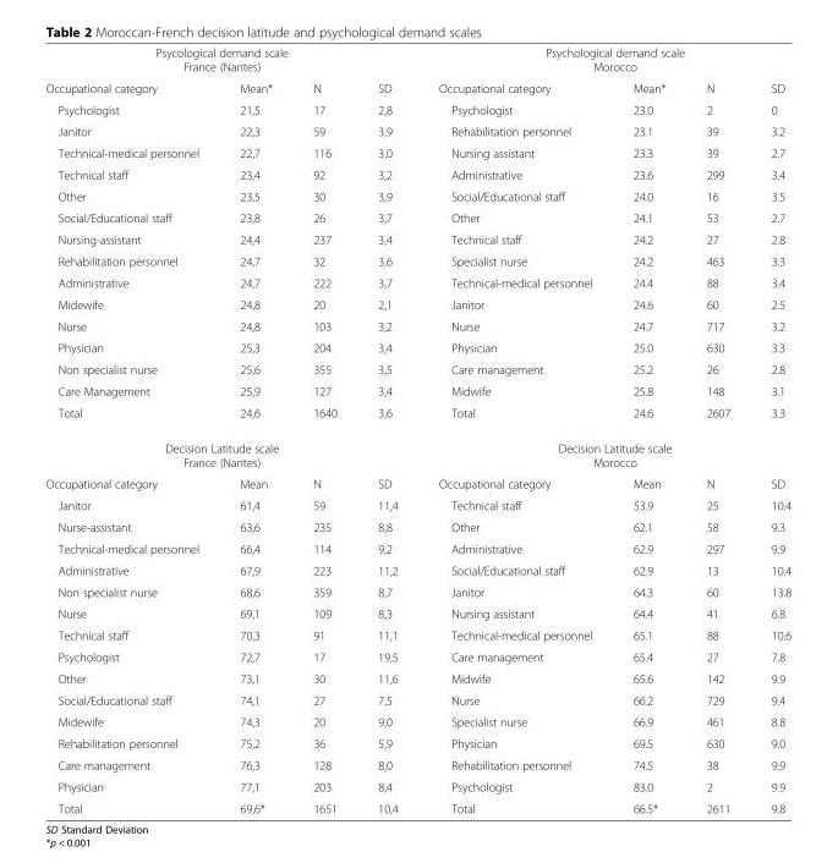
<table><tbody><tr><td colspan="4">Psycological demand scale France (Nantes)</td><td colspan="4">Psychological demand scale Morocco</td></tr><tr><td>Occupational category</td><td>Mean*</td><td>N</td><td>SD</td><td>Occupational category</td><td>Mean*</td><td>N</td><td>SD</td></tr><tr><td>Psychologist</td><td>21,5</td><td>17</td><td>2,8</td><td>Psychologist</td><td>23.0</td><td>2</td><td>0</td></tr><tr><td>Janitor</td><td>22,3</td><td>59</td><td>3,9</td><td>Rehabilitation personnel</td><td>23.1</td><td>39</td><td>3.2</td></tr><tr><td>Technical-medical personnel</td><td>22,7</td><td>116</td><td>3,0</td><td>Nursing assistant</td><td>23.3</td><td>39</td><td>2.7</td></tr><tr><td>Technical staff</td><td>23,4</td><td>92</td><td>3,2</td><td>Administrative</td><td>23.6</td><td>299</td><td>3.4</td></tr><tr><td>Other</td><td>23,5</td><td>30</td><td>3,9</td><td>Social/Educational staff</td><td>24.0</td><td>16</td><td>3.5</td></tr><tr><td>Social/Educational staff</td><td>23,8</td><td>26</td><td>3,7</td><td>Other</td><td>24.1</td><td>53</td><td>2.7</td></tr><tr><td>Nursing-assistant</td><td>24,4</td><td>237</td><td>3,4</td><td>Technical staff</td><td>24.2</td><td>27</td><td>2.8</td></tr><tr><td>Rehabilitation personnel</td><td>24,7</td><td>32</td><td>3,6</td><td>Specialist nurse</td><td>24.2</td><td>463</td><td>3.3</td></tr><tr><td>Administrative</td><td>24,7</td><td>222</td><td>3,7</td><td>Technical-medical personnel</td><td>24.4</td><td>88</td><td>3.4</td></tr><tr><td>Midewife</td><td>24,8</td><td>20</td><td>2,1</td><td>Janitor</td><td>24.6</td><td>60</td><td>2.5</td></tr><tr><td>Nurse</td><td>24,8</td><td>103</td><td>3,2</td><td>Nurse</td><td>24.7</td><td>717</td><td>3.2</td></tr><tr><td>Physician</td><td>25,3</td><td>204</td><td>3,4</td><td>Physician</td><td>25.0</td><td>630</td><td>3.3</td></tr><tr><td>Non specialist nurse</td><td>25,6</td><td>355</td><td>3,5</td><td>Care management</td><td>25.2</td><td>26</td><td>2.8</td></tr><tr><td>Care Management</td><td>25,9</td><td>127</td><td>3,4</td><td>Midwife</td><td>25.8</td><td>148</td><td>3.1</td></tr><tr><td>Total</td><td>24,6</td><td>1640</td><td>3,6</td><td>Total</td><td>24.6</td><td>2607</td><td>3.3</td></tr><tr><td colspan="4">Decision Latitude scale France (Nantes)</td><td colspan="4">Decision Latitude scale Morocco</td></tr><tr><td>Occupational category</td><td>Mean</td><td>N</td><td>SD</td><td>Occupational category</td><td>Mean</td><td>N</td><td>SD</td></tr><tr><td>Janitor</td><td>61,4</td><td>59</td><td>11,4</td><td>Technical staff</td><td>53.9</td><td>25</td><td>10.4</td></tr><tr><td>Nurse-assistant</td><td>63,6</td><td>235</td><td>8,8</td><td>Other</td><td>62.1</td><td>58</td><td>9.3</td></tr><tr><td>Technical-medical personnel</td><td>66,4</td><td>114</td><td>9,2</td><td>Administrative</td><td>62.9</td><td>297</td><td>9.9</td></tr><tr><td>Administrative</td><td>67,9</td><td>223</td><td>11,2</td><td>Social/Educational staff</td><td>62.9</td><td>13</td><td>10.4</td></tr><tr><td>Non specialist nurse</td><td>68,6</td><td>359</td><td>8,7</td><td>Janitor</td><td>64.3</td><td>60</td><td>13.8</td></tr><tr><td>Nurse</td><td>69,1</td><td>109</td><td>8,3</td><td>Nursing assistant</td><td>64.4</td><td>41</td><td>6.8</td></tr><tr><td>Technical staff</td><td>70,3</td><td>91</td><td>11,1</td><td>Technical-medical personnel</td><td>65.1</td><td>88</td><td>10.6</td></tr><tr><td>Psychologist</td><td>72,7</td><td>17</td><td>19,5</td><td>Care management</td><td>65.4</td><td>27</td><td>7.8</td></tr><tr><td>Other</td><td>73,1</td><td>30</td><td>11,6</td><td>Midwife</td><td>65.6</td><td>142</td><td>9.9</td></tr><tr><td>Social/Educational staff</td><td>74,1</td><td>27</td><td>7,5</td><td>Nurse</td><td>66.2</td><td>729</td><td>9.4</td></tr><tr><td>Midewife</td><td>74,3</td><td>20</td><td>9,0</td><td>Specialist nurse</td><td>66.9</td><td>461</td><td>8.8</td></tr><tr><td>Rehabilitation personnel</td><td>75,2</td><td>36</td><td>5,9</td><td>Physician</td><td>69.5</td><td>630</td><td>9.0</td></tr><tr><td>Care management</td><td>76,3</td><td>128</td><td>8,0</td><td>Rehabilitation personnel</td><td>74.5</td><td>38</td><td>9.9</td></tr><tr><td>Physician</td><td>77,1</td><td>203</td><td>8,4</td><td>Psychologist</td><td>83.0</td><td>2</td><td>9.9</td></tr><tr><td>Total</td><td>69,6*</td><td>1651</td><td>10,4</td><td>Total</td><td>66.5*</td><td>2611</td><td>9.8</td></tr></tbody></table>